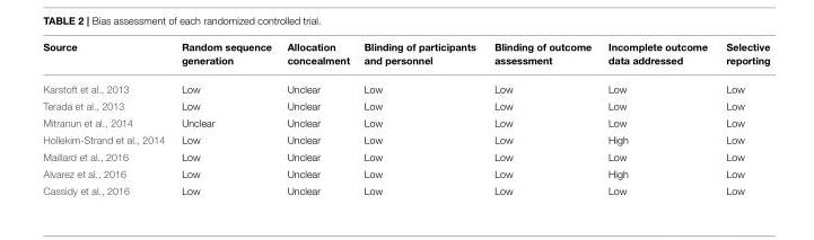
<table><thead><tr><td>Source</td><td>Random sequence generation</td><td>Allocation concealment</td><td>Blinding of participants and personnel</td><td>Blinding of outcome assessment</td><td>Incomplete outcome data addressed</td><td>Selective reporting</td></tr></thead><tbody><tr><td>Karstoft et al., 2013</td><td>Low</td><td>Unclear</td><td>Low</td><td>Low</td><td>Low</td><td>Low</td></tr><tr><td>Terada et al., 2013</td><td>Low</td><td>Unclear</td><td>Low</td><td>Low</td><td>Low</td><td>Low</td></tr><tr><td>Mitranun et al., 2014</td><td>Unclear</td><td>Unclear</td><td>Low</td><td>Low</td><td>Low</td><td>Low</td></tr><tr><td>Hollekim-Strand et al., 2014</td><td>Low</td><td>Unclear</td><td>Low</td><td>Low</td><td>High</td><td>Low</td></tr><tr><td>Maillard et al., 2016</td><td>Low</td><td>Unclear</td><td>Low</td><td>Low</td><td>Low</td><td>Low</td></tr><tr><td>Alvarez et al., 2016</td><td>Low</td><td>Unclear</td><td>Low</td><td>Low</td><td>High</td><td>Low</td></tr><tr><td>Cassidy et al., 2016</td><td>Low</td><td>Unclear</td><td>Low</td><td>Low</td><td>Low</td><td>Low</td></tr></tbody></table>